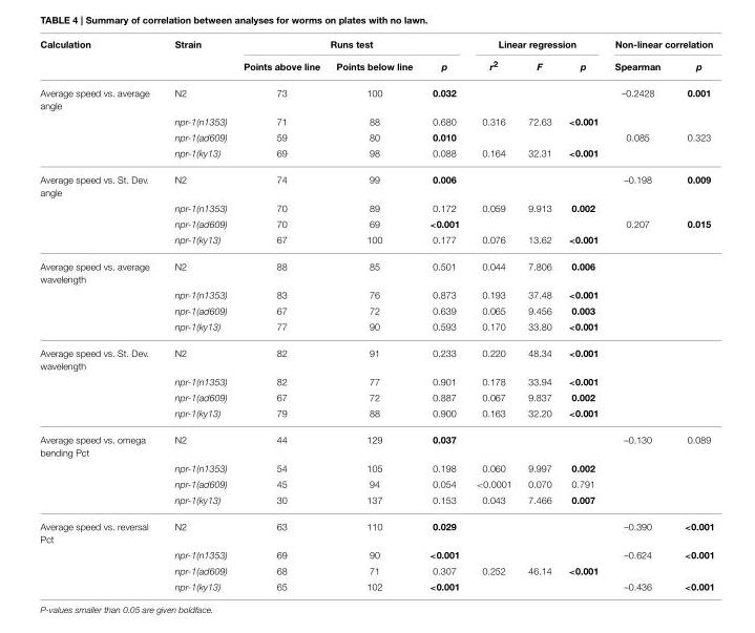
<table><thead><tr><td rowspan="2">Calculation</td><td rowspan="2">Strain</td><td colspan="3">Runs test</td><td colspan="3">Linear regression</td><td colspan="2">Non-linear correlation</td></tr><tr><td>Points above line</td><td>Points below line</td><td>p</td><td>r<sup>2</sup></td><td>F</td><td>p</td><td>Spearman</td><td>p</td></tr></thead><tbody><tr><td rowspan="4">Average speed vs. average angle</td><td>N2</td><td>73</td><td>100</td><td>0.032</td><td></td><td></td><td></td><td>–0.2428</td><td>0.001</td></tr><tr><td>npr-1(n1353)</td><td>71</td><td>88</td><td>0.680</td><td>0.316</td><td>72.63</td><td>&lt;0.001</td><td></td><td></td></tr><tr><td>npr-1(ad609)</td><td>59</td><td>80</td><td>0.010</td><td></td><td></td><td></td><td>0.085</td><td>0.323</td></tr><tr><td>npr-1(ky13)</td><td>69</td><td>98</td><td>0.088</td><td>0.164</td><td>32.31</td><td>&lt;0.001</td><td></td><td></td></tr><tr><td rowspan="4">Average speed vs. St. Dev. angle</td><td>N2</td><td>74</td><td>99</td><td>0.006</td><td></td><td></td><td></td><td>–0.198</td><td>0.009</td></tr><tr><td>npr-1(n1353)</td><td>70</td><td>89</td><td>0.172</td><td>0.059</td><td>9.913</td><td>0.002</td><td></td><td></td></tr><tr><td>npr-1(ad609)</td><td>70</td><td>69</td><td>&lt;0.001</td><td></td><td></td><td></td><td>0.207</td><td>0.015</td></tr><tr><td>npr-1(ky13)</td><td>67</td><td>100</td><td>0.177</td><td>0.076</td><td>13.62</td><td>&lt;0.001</td><td></td><td></td></tr><tr><td rowspan="4">Average speed vs. average wavelength</td><td>N2</td><td>88</td><td>85</td><td>0.501</td><td>0.044</td><td>7.806</td><td>0.006</td><td></td><td></td></tr><tr><td>npr-1(n1353)</td><td>83</td><td>76</td><td>0.873</td><td>0.193</td><td>37.48</td><td>&lt;0.001</td><td></td><td></td></tr><tr><td>npr-1(ad609)</td><td>67</td><td>72</td><td>0.639</td><td>0.065</td><td>9.456</td><td>0.003</td><td></td><td></td></tr><tr><td>npr-1(ky13)</td><td>77</td><td>90</td><td>0.593</td><td>0.170</td><td>33.80</td><td>&lt;0.001</td><td></td><td></td></tr><tr><td rowspan="4">Average speed vs. St. Dev. wavelength</td><td>N2</td><td>82</td><td>91</td><td>0.233</td><td>0.220</td><td>48.34</td><td>&lt;0.001</td><td></td><td></td></tr><tr><td>npr-1(n1353)</td><td>82</td><td>77</td><td>0.901</td><td>0.178</td><td>33.94</td><td>&lt;0.001</td><td></td><td></td></tr><tr><td>npr-1(ad609)</td><td>67</td><td>72</td><td>0.887</td><td>0.067</td><td>9.837</td><td>0.002</td><td></td><td></td></tr><tr><td>npr-1(ky13)</td><td>79</td><td>88</td><td>0.900</td><td>0.163</td><td>32.20</td><td>&lt;0.001</td><td></td><td></td></tr><tr><td rowspan="4">Average speed vs. omega bending Pct</td><td>N2</td><td>44</td><td>129</td><td>0.037</td><td></td><td></td><td></td><td>–0.130</td><td>0.089</td></tr><tr><td>npr-1(n1353)</td><td>54</td><td>105</td><td>0.198</td><td>0.060</td><td>9.997</td><td>0.002</td><td></td><td></td></tr><tr><td>npr-1(ad609)</td><td>45</td><td>94</td><td>0.054</td><td>&lt;0.0001</td><td>0.070</td><td>0.791</td><td></td><td></td></tr><tr><td>npr-1(ky13)</td><td>30</td><td>137</td><td>0.153</td><td>0.043</td><td>7.466</td><td>0.007</td><td></td><td></td></tr><tr><td rowspan="4">Average speed vs. reversal Pct</td><td>N2</td><td>63</td><td>110</td><td>0.029</td><td></td><td></td><td></td><td>–0.390</td><td>&lt;0.001</td></tr><tr><td>npr-1(n1353)</td><td>69</td><td>90</td><td>&lt;0.001</td><td></td><td></td><td></td><td>–0.624</td><td>&lt;0.001</td></tr><tr><td>npr-1(ad609)</td><td>68</td><td>71</td><td>0.307</td><td>0.252</td><td>46.14</td><td>&lt;0.001</td><td></td><td></td></tr><tr><td>npr-1(ky13)</td><td>65</td><td>102</td><td>&lt;0.001</td><td></td><td></td><td></td><td>–0.436</td><td>&lt;0.001</td></tr></tbody></table>